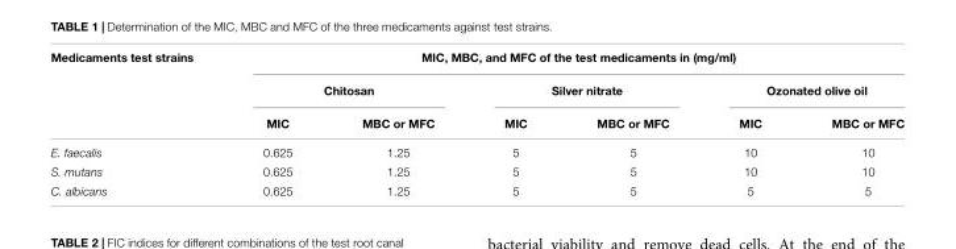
<table><thead><tr><td rowspan="3">Medicaments test strains</td><td colspan="6">MIC, MBC, and MFC of the test medicaments in (mg/ml)</td></tr><tr><td colspan="2">Chitosan</td><td colspan="2">Silver nitrate</td><td colspan="2">Ozonated olive oil</td></tr><tr><td>MIC</td><td>MBC or MFC</td><td>MIC</td><td>MBC or MFC</td><td>MIC</td><td>MBC or MFC</td></tr></thead><tbody><tr><td>E. faecalis</td><td>0.625</td><td>1.25</td><td>5</td><td>5</td><td>10</td><td>10</td></tr><tr><td>S. mutans</td><td>0.625</td><td>1.25</td><td>5</td><td>5</td><td>10</td><td>10</td></tr><tr><td>C. albicans</td><td>0.625</td><td>1.25</td><td>5</td><td>5</td><td>5</td><td>5</td></tr></tbody></table>